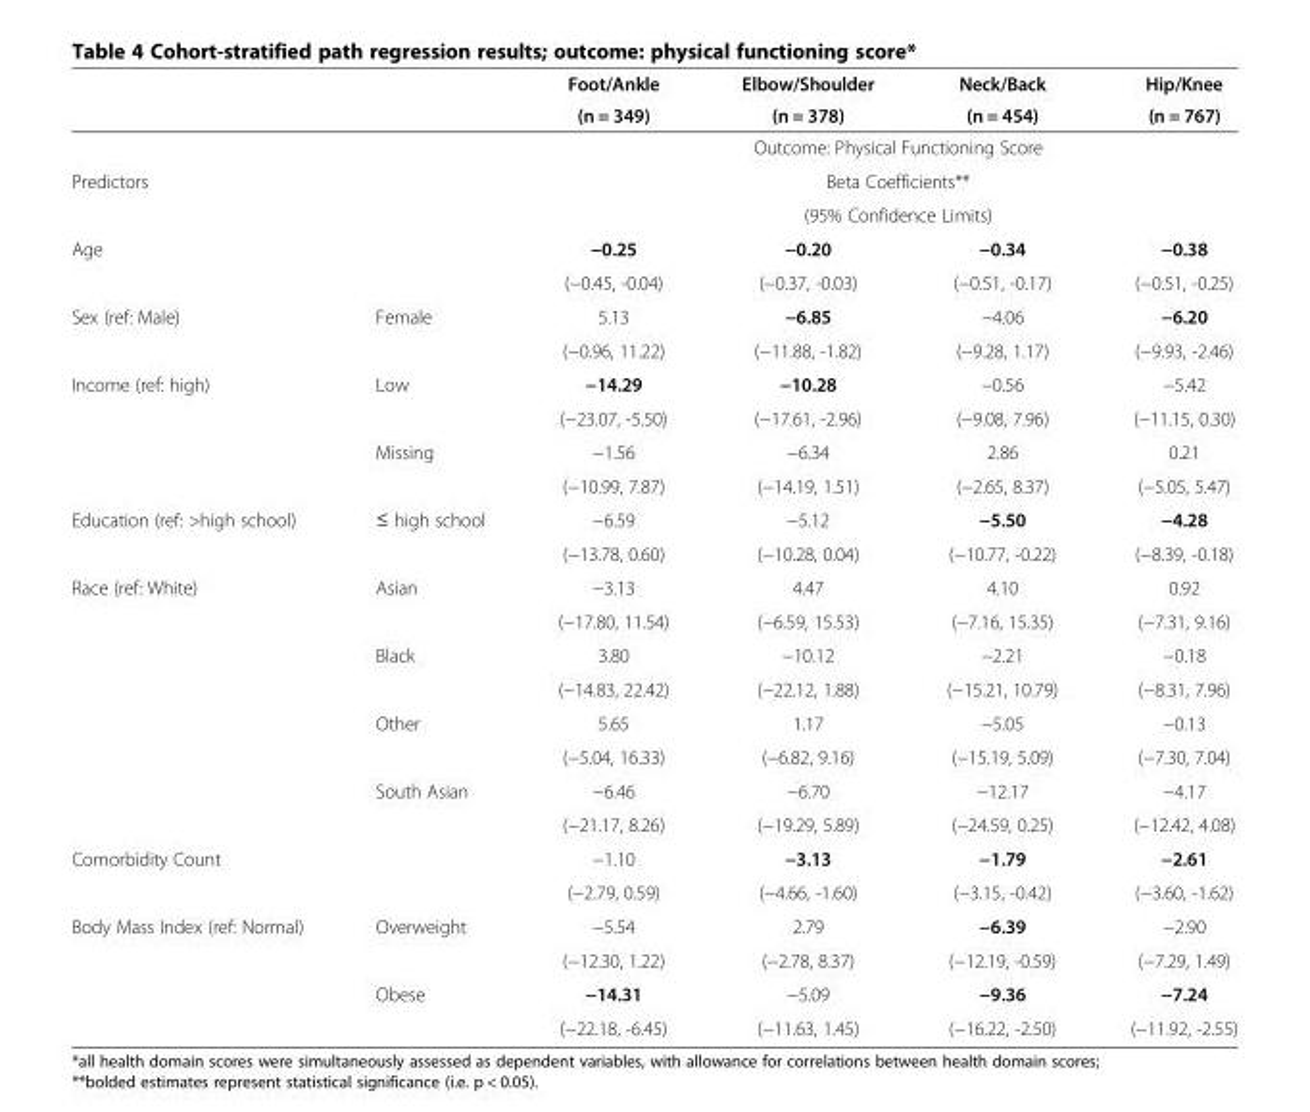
<table><thead><tr><td rowspan="2"></td><td rowspan="2"></td><td rowspan="2">Foot/Ankle (n = 349)</td><td rowspan="2">Elbow/Shoulder (n = 378)</td><td rowspan="2">Neck/Back (n = 454)</td><td rowspan="2">Hip/Knee (n = 767)</td></tr><tr></tr></thead><tbody><tr><td></td><td></td><td></td><td colspan="2">Outcome: Physical Functioning Score</td><td></td></tr><tr><td rowspan="2">Predictors</td><td rowspan="2"></td><td></td><td colspan="2">Beta Coefficients**</td><td></td></tr><tr><td></td><td colspan="2">(95% Confidence Limits)</td><td></td></tr><tr><td rowspan="2">Age</td><td></td><td>−0.25</td><td>−0.20</td><td>−0.34</td><td>−0.38</td></tr><tr><td></td><td>(−0.45, -0.04)</td><td>(−0.37, -0.03)</td><td>(−0.51, -0.17)</td><td>(−0.51, -0.25)</td></tr><tr><td rowspan="2">Sex (ref: Male)</td><td>Female</td><td>5.13</td><td>−6.85</td><td>−4.06</td><td>−6.20</td></tr><tr><td></td><td>(−0.96, 11.22)</td><td>(−11.88, -1.82)</td><td>(−9.28, 1.17)</td><td>(−9.93, -2.46)</td></tr><tr><td rowspan="4">Income (ref: high)</td><td>Low</td><td>−14.29</td><td>−10.28</td><td>−0.56</td><td>−5.42</td></tr><tr><td></td><td>(−23.07, -5.50)</td><td>(−17.61, -2.96)</td><td>(−9.08, 7.96)</td><td>(−11.15, 0.30)</td></tr><tr><td>Missing</td><td>−1.56</td><td>−6.34</td><td>2.86</td><td>0.21</td></tr><tr><td></td><td>(−10.99, 7.87)</td><td>(−14.19, 1.51)</td><td>(−2.65, 8.37)</td><td>(−5.05, 5.47)</td></tr><tr><td rowspan="2">Education (ref: &gt;high school)</td><td>≤ high school</td><td>−6.59</td><td>−5.12</td><td>−5.50</td><td>−4.28</td></tr><tr><td></td><td>(−13.78, 0.60)</td><td>(−10.28, 0.04)</td><td>(−10.77, -0.22)</td><td>(−8.39, -0.18)</td></tr><tr><td rowspan="8">Race (ref: White)</td><td>Asian</td><td>−3.13</td><td>4.47</td><td>4.10</td><td>0.92</td></tr><tr><td></td><td>(−17.80, 11.54)</td><td>(−6.59, 15.53)</td><td>(−7.16, 15.35)</td><td>(−7.31, 9.16)</td></tr><tr><td>Black</td><td>3.80</td><td>−10.12</td><td>−2.21</td><td>−0.18</td></tr><tr><td></td><td>(−14.83, 22.42)</td><td>(−22.12, 1.88)</td><td>(−15.21, 10.79)</td><td>(−8.31, 7.96)</td></tr><tr><td>Other</td><td>5.65</td><td>1.17</td><td>−5.05</td><td>−0.13</td></tr><tr><td></td><td>(−5.04, 16.33)</td><td>(−6.82, 9.16)</td><td>(−15.19, 5.09)</td><td>(−7.30, 7.04)</td></tr><tr><td>South Asian</td><td>−6.46</td><td>−6.70</td><td>−12.17</td><td>−4.17</td></tr><tr><td></td><td>(−21.17, 8.26)</td><td>(−19.29, 5.89)</td><td>(−24.59, 0.25)</td><td>(−12.42, 4.08)</td></tr><tr><td rowspan="2">Comorbidity Count</td><td></td><td>−1.10</td><td>−3.13</td><td>−1.79</td><td>−2.61</td></tr><tr><td></td><td>(−2.79, 0.59)</td><td>(−4.66, -1.60)</td><td>(−3.15, -0.42)</td><td>(−3.60, -1.62)</td></tr><tr><td rowspan="4">Body Mass Index (ref: Normal)</td><td>Overweight</td><td>−5.54</td><td>2.79</td><td>−6.39</td><td>−2.90</td></tr><tr><td></td><td>(−12.30, 1.22)</td><td>(−2.78, 8.37)</td><td>(−12.19, -0.59)</td><td>(−7.29, 1.49)</td></tr><tr><td>Obese</td><td>−14.31</td><td>−5.09</td><td>−9.36</td><td>−7.24</td></tr><tr><td></td><td>(−22.18, -6.45)</td><td>(−11.63, 1.45)</td><td>(−16.22, -2.50)</td><td>(−11.92, -2.55)</td></tr></tbody></table>